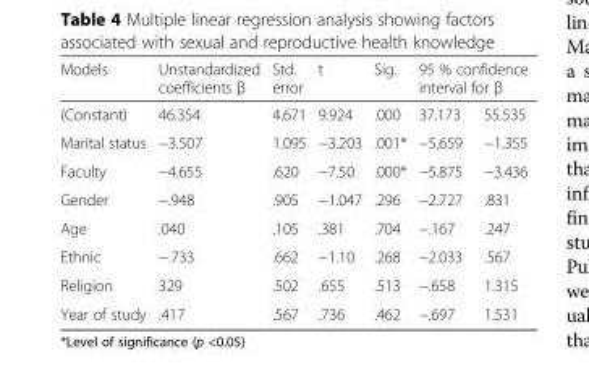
<table><thead><tr><td rowspan="2">Models (Constant)</td><td rowspan="2">Unstandardized coefficients β 46.354</td><td rowspan="2">Std. error 4.671</td><td rowspan="2">t 9.924</td><td rowspan="2">Sig. .000</td><td colspan="2">95 % confidence interval for β</td></tr><tr><td>37.173</td><td>55.535</td></tr></thead><tbody><tr><td>Marital status</td><td>−3.507</td><td>1.095</td><td>−3.203</td><td>.001*</td><td>−5.659</td><td>−1.355</td></tr><tr><td>Faculty</td><td>−4.655</td><td>.620</td><td>−7.50</td><td>.000*</td><td>−5.875</td><td>−3.436</td></tr><tr><td>Gender</td><td>−.948</td><td>.905</td><td>−1.047</td><td>.296</td><td>−2.727</td><td>.831</td></tr><tr><td>Age</td><td>.040</td><td>.105</td><td>.381</td><td>.704</td><td>−.167</td><td>.247</td></tr><tr><td>Ethnic</td><td>−.733</td><td>.662</td><td>−1.10</td><td>.268</td><td>−2.033</td><td>.567</td></tr><tr><td>Religion</td><td>329</td><td>.502</td><td>.655</td><td>.513</td><td>−.658</td><td>1.315</td></tr><tr><td>Year of study</td><td>.417</td><td>.567</td><td>.736</td><td>.462</td><td>−.697</td><td>1.531</td></tr></tbody></table>